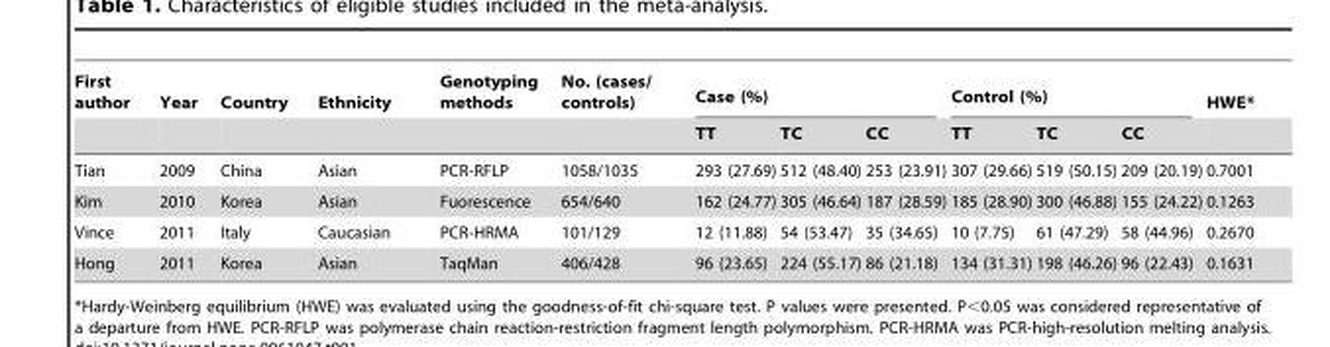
<table><thead><tr><td rowspan="2">First author</td><td rowspan="2">Year</td><td rowspan="2">Country</td><td rowspan="2">Ethnicity</td><td rowspan="2">Genotyping methods</td><td rowspan="2">No. (cases/ controls)</td><td colspan="3">Case (%)</td><td colspan="3">Control (%)</td><td rowspan="2">HWE*</td></tr><tr><td>TT</td><td>TC</td><td>CC</td><td>TT</td><td>TC</td><td>CC</td></tr></thead><tbody><tr><td>Tian</td><td>2009</td><td>China</td><td>Asian</td><td>PCR-RFLP</td><td>1058/1035</td><td>293 (27.69)</td><td>512 (48.40)</td><td>253 (23.91)</td><td>307 (29.66)</td><td>519 (50.15)</td><td>209 (20.19)</td><td>0.7001</td></tr><tr><td>Kim</td><td>2010</td><td>Korea</td><td>Asian</td><td>Fuorescence</td><td>654/640</td><td>162 (24.77)</td><td>305 (46.64)</td><td>187 (28.59)</td><td>185 (28.90)</td><td>300 (46.88)</td><td>155 (24.22)</td><td>0.1263</td></tr><tr><td>Vince</td><td>2011</td><td>Italy</td><td>Caucasian</td><td>PCR-HRMA</td><td>101/129</td><td>12 (11.88)</td><td>54 (53.47)</td><td>35 (34.65)</td><td>10 (7.75)</td><td>61 (47.29)</td><td>58 (44.96)</td><td>0.2670</td></tr><tr><td>Hong</td><td>2011</td><td>Korea</td><td>Asian</td><td>TaqMan</td><td>406/428</td><td>96 (23.65)</td><td>224 (55.17)</td><td>86 (21.18)</td><td>134 (31.31)</td><td>198 (46.26)</td><td>96 (22.43)</td><td>0.1631</td></tr></tbody></table>